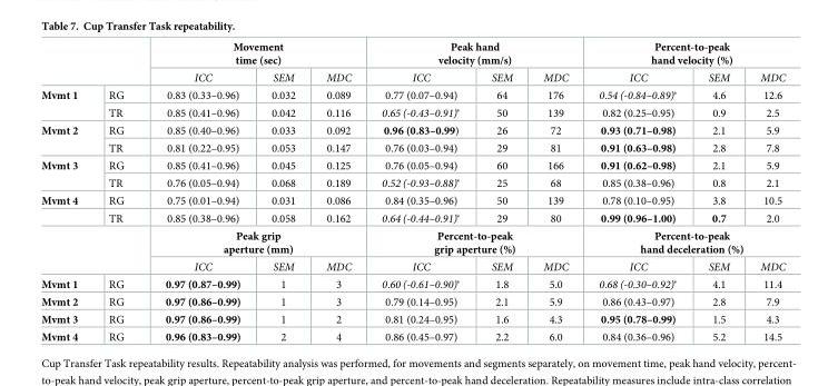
<table><thead><tr><td rowspan="2"></td><td rowspan="2"></td><td colspan="3">Movement time (sec)</td><td colspan="3">Peak hand velocity (mm/s)</td><td colspan="3">Percent-to-peak hand velocity (%)</td></tr><tr><td>ICC</td><td>SEM</td><td>MDC</td><td>ICC</td><td>SEM</td><td>MDC</td><td>ICC</td><td>SEM</td><td>MDC</td></tr></thead><tbody><tr><td rowspan="2">Mvmt 1</td><td>RG</td><td>0.83 (0.33–0.96)</td><td>0.032</td><td>0.089</td><td>0.77 (0.07–0.94)</td><td>64</td><td>176</td><td>0.54 (-0.84–0.89)*</td><td>4.6</td><td>12.6</td></tr><tr><td>TR</td><td>0.85 (0.41–0.96)</td><td>0.042</td><td>0.116</td><td>0.65 (-0.43–0.91)*</td><td>50</td><td>139</td><td>0.82 (0.25–0.95)</td><td>0.9</td><td>2.5</td></tr><tr><td rowspan="2">Mvmt 2</td><td>RG</td><td>0.85 (0.40–0.96)</td><td>0.033</td><td>0.092</td><td>0.96 (0.83–0.99)</td><td>26</td><td>72</td><td>0.93 (0.71–0.98)</td><td>2.1</td><td>5.9</td></tr><tr><td>TR</td><td>0.81 (0.22–0.95)</td><td>0.053</td><td>0.147</td><td>0.76 (0.03–0.94)</td><td>29</td><td>81</td><td>0.91 (0.63–0.98)</td><td>2.8</td><td>7.8</td></tr><tr><td rowspan="2">Mvmt 3</td><td>RG</td><td>0.85 (0.41–0.96)</td><td>0.045</td><td>0.125</td><td>0.76 (0.05–0.94)</td><td>60</td><td>166</td><td>0.91 (0.62–0.98)</td><td>2.1</td><td>5.9</td></tr><tr><td>TR</td><td>0.76 (0.05–0.94)</td><td>0.068</td><td>0.189</td><td>0.52 (-0.93–0.88)*</td><td>25</td><td>68</td><td>0.85 (0.38–0.96)</td><td>0.8</td><td>2.1</td></tr><tr><td rowspan="2">Mvmt 4</td><td>RG</td><td>0.75 (0.01–0.94)</td><td>0.031</td><td>0.086</td><td>0.84 (0.35–0.96)</td><td>50</td><td>139</td><td>0.78 (0.10–0.95)</td><td>3.8</td><td>10.5</td></tr><tr><td>TR</td><td>0.85 (0.38–0.96)</td><td>0.058</td><td>0.162</td><td>0.64 (-0.44–0.91)*</td><td>29</td><td>80</td><td>0.99 (0.96–1.00)</td><td>0.7</td><td>2.0</td></tr><tr><td rowspan="2" colspan="2"></td><td colspan="3">Peak grip aperture (mm)</td><td colspan="3">Percent-to-peak grip aperture (%)</td><td colspan="3">Percent-to-peak hand deceleration (%)</td></tr><tr><td>ICC</td><td>SEM</td><td>MDC</td><td>ICC</td><td>SEM</td><td>MDC</td><td>ICC</td><td>SEM</td><td>MDC</td></tr><tr><td>Mvmt 1</td><td>RG</td><td>0.97 (0.87–0.99)</td><td>1</td><td>3</td><td>0.60 (-0.61–0.90)*</td><td>1.8</td><td>5.0</td><td>0.68 (-0.30–0.92)*</td><td>4.1</td><td>11.4</td></tr><tr><td>Mvmt 2</td><td>RG</td><td>0.97 (0.86–0.99)</td><td>1</td><td>3</td><td>0.79 (0.14–0.95)</td><td>2.1</td><td>5.9</td><td>0.86 (0.43–0.97)</td><td>2.8</td><td>7.9</td></tr><tr><td>Mvmt 3</td><td>RG</td><td>0.97 (0.86–0.99)</td><td>1</td><td>2</td><td>0.81 (0.24–0.95)</td><td>1.6</td><td>4.3</td><td>0.95 (0.78–0.99)</td><td>1.5</td><td>4.3</td></tr><tr><td>Mvmt 4</td><td>RG</td><td>0.96 (0.83–0.99)</td><td>2</td><td>4</td><td>0.86 (0.45–0.97)</td><td>2.2</td><td>6.0</td><td>0.84 (0.36–0.96)</td><td>5.2</td><td>14.5</td></tr></tbody></table>